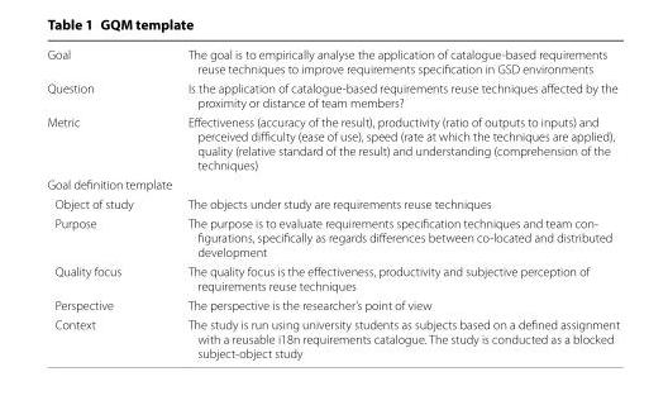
<table><tbody><tr><td>Goal</td><td>The goal is to empirically analyse the application of catalogue‑based requirements reuse techniques to improve requirements specification in GSD environments</td></tr><tr><td>Question</td><td>Is the application of catalogue‑based requirements reuse techniques affected by the proximity or distance of team members?</td></tr><tr><td>Metric</td><td>Effectiveness (accuracy of the result), productivity (ratio of outputs to inputs) and perceived difficulty (ease of use), speed (rate at which the techniques are applied), quality (relative standard of the result) and understanding (comprehension of the techniques)</td></tr><tr><td colspan="2">Goal definition template</td></tr><tr><td>Object of study</td><td>The objects under study are requirements reuse techniques</td></tr><tr><td>Purpose</td><td>The purpose is to evaluate requirements specification techniques and team con‑ figurations, specifically as regards differences between co‑located and distributed development</td></tr><tr><td>Quality focus</td><td>The quality focus is the effectiveness, productivity and subjective perception of requirements reuse techniques</td></tr><tr><td>Perspective</td><td>The perspective is the researcher’s point of view</td></tr><tr><td>Context</td><td>The study is run using university students as subjects based on a defined assignment with a reusable i18n requirements catalogue. The study is conducted as a blocked subject‑object study</td></tr></tbody></table>